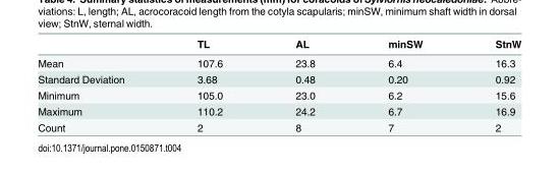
<table><thead><tr><td></td><td>TL</td><td>AL</td><td>minSW</td><td>StnW</td></tr></thead><tbody><tr><td>Mean</td><td>107.6</td><td>23.8</td><td>6.4</td><td>16.3</td></tr><tr><td>Standard Deviation</td><td>3.68</td><td>0.48</td><td>0.20</td><td>0.92</td></tr><tr><td>Minimum</td><td>105.0</td><td>23.0</td><td>6.2</td><td>15.6</td></tr><tr><td>Maximum</td><td>110.2</td><td>24.2</td><td>6.7</td><td>16.9</td></tr><tr><td>Count</td><td>2</td><td>8</td><td>7</td><td>2</td></tr></tbody></table>